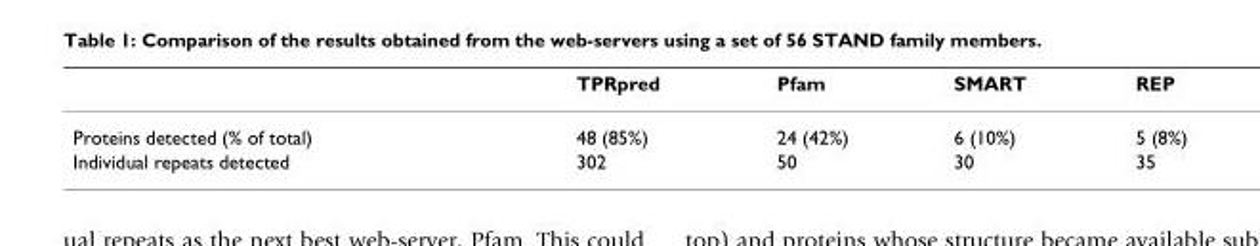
<table><thead><tr><td></td><td>TPRpred</td><td>Pfam</td><td>SMART</td><td>REP</td></tr></thead><tbody><tr><td>Proteins detected (% of total)</td><td>48 (85%)</td><td>24 (42%)</td><td>6 (10%)</td><td>5 (8%)</td></tr><tr><td>Individual repeats detected</td><td>302</td><td>50</td><td>30</td><td>35</td></tr></tbody></table>